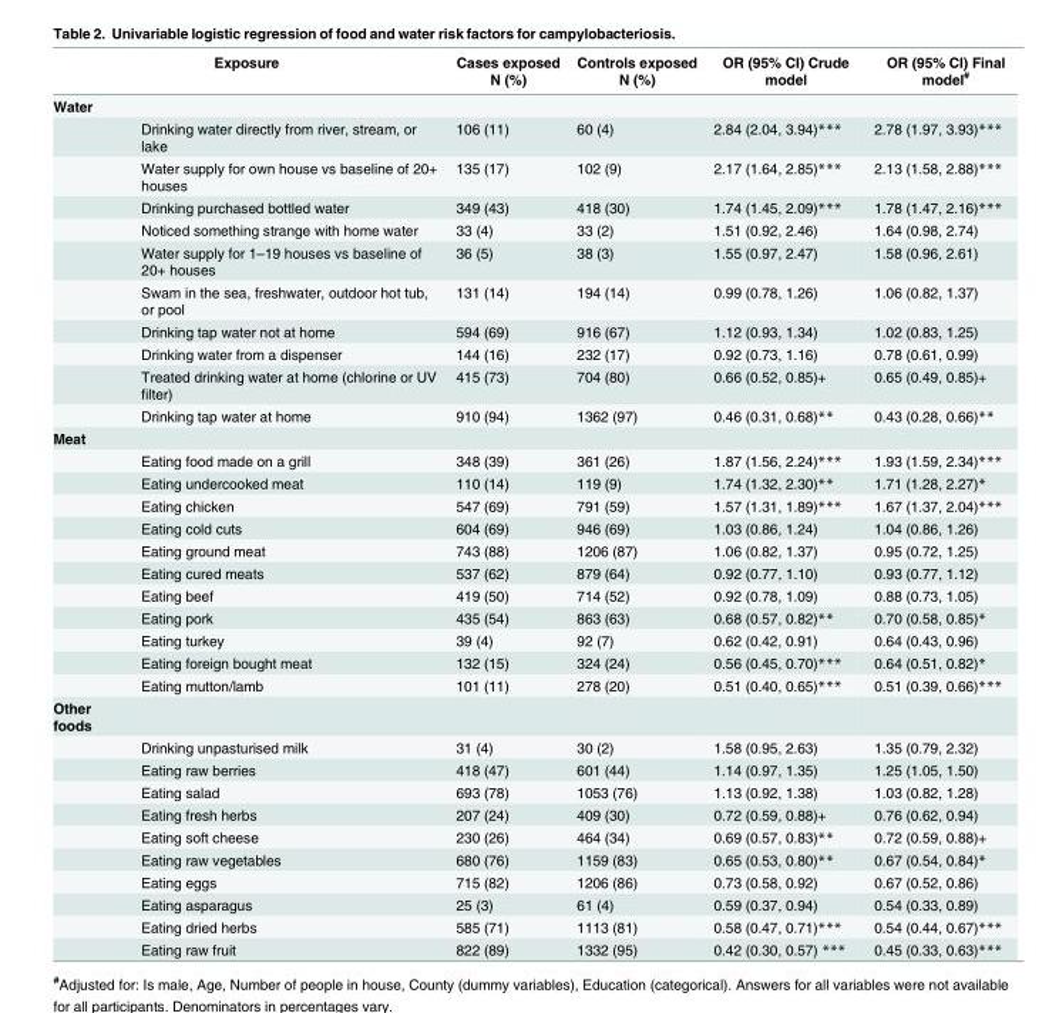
<table><thead><tr><td colspan="2">Exposure</td><td rowspan="2">Cases exposed N (%)</td><td rowspan="2">Controls exposed N (%)</td><td rowspan="2">OR (95% CI) Crude model</td><td rowspan="2">OR (95% CI) Final model<sup>#</sup></td></tr><tr><td>Water</td><td></td></tr></thead><tbody><tr><td></td><td>Drinking water directly from river, stream, or lake</td><td>106 (11)</td><td>60 (4)</td><td>2.84 (2.04, 3.94)***</td><td>2.78 (1.97, 3.93)***</td></tr><tr><td></td><td>Water supply for own house vs baseline of 20+ houses</td><td>135 (17)</td><td>102 (9)</td><td>2.17 (1.64, 2.85)***</td><td>2.13 (1.58, 2.88)***</td></tr><tr><td></td><td>Drinking purchased bottled water</td><td>349 (43)</td><td>418 (30)</td><td>1.74 (1.45, 2.09)***</td><td>1.78 (1.47, 2.16)***</td></tr><tr><td></td><td>Noticed something strange with home water</td><td>33 (4)</td><td>33 (2)</td><td>1.51 (0.92, 2.46)</td><td>1.64 (0.98, 2.74)</td></tr><tr><td></td><td>Water supply for 1–19 houses vs baseline of 20+ houses</td><td>36 (5)</td><td>38 (3)</td><td>1.55 (0.97, 2.47)</td><td>1.58 (0.96, 2.61)</td></tr><tr><td></td><td>Swam in the sea, freshwater, outdoor hot tub, or pool</td><td>131 (14)</td><td>194 (14)</td><td>0.99 (0.78, 1.26)</td><td>1.06 (0.82, 1.37)</td></tr><tr><td></td><td>Drinking tap water not at home</td><td>594 (69)</td><td>916 (67)</td><td>1.12 (0.93, 1.34)</td><td>1.02 (0.83, 1.25)</td></tr><tr><td></td><td>Drinking water from a dispenser</td><td>144 (16)</td><td>232 (17)</td><td>0.92 (0.73, 1.16)</td><td>0.78 (0.61, 0.99)</td></tr><tr><td></td><td>Treated drinking water at home (chlorine or UV filter)</td><td>415 (73)</td><td>704 (80)</td><td>0.66 (0.52, 0.85)+</td><td>0.65 (0.49, 0.85)+</td></tr><tr><td></td><td>Drinking tap water at home</td><td>910 (94)</td><td>1362 (97)</td><td>0.46 (0.31, 0.68)**</td><td>0.43 (0.28, 0.66)**</td></tr><tr><td colspan="6">Meat</td></tr><tr><td></td><td>Eating food made on a grill</td><td>348 (39)</td><td>361 (26)</td><td>1.87 (1.56, 2.24)***</td><td>1.93 (1.59, 2.34)***</td></tr><tr><td></td><td>Eating undercooked meat</td><td>110 (14)</td><td>119 (9)</td><td>1.74 (1.32, 2.30)**</td><td>1.71 (1.28, 2.27)*</td></tr><tr><td></td><td>Eating chicken</td><td>547 (69)</td><td>791 (59)</td><td>1.57 (1.31, 1.89)***</td><td>1.67 (1.37, 2.04)***</td></tr><tr><td></td><td>Eating cold cuts</td><td>604 (69)</td><td>946 (69)</td><td>1.03 (0.86, 1.24)</td><td>1.04 (0.86, 1.26)</td></tr><tr><td></td><td>Eating ground meat</td><td>743 (88)</td><td>1206 (87)</td><td>1.06 (0.82, 1.37)</td><td>0.95 (0.72, 1.25)</td></tr><tr><td></td><td>Eating cured meats</td><td>537 (62)</td><td>879 (64)</td><td>0.92 (0.77, 1.10)</td><td>0.93 (0.77, 1.12)</td></tr><tr><td></td><td>Eating beef</td><td>419 (50)</td><td>714 (52)</td><td>0.92 (0.78, 1.09)</td><td>0.88 (0.73, 1.05)</td></tr><tr><td></td><td>Eating pork</td><td>435 (54)</td><td>863 (63)</td><td>0.68 (0.57, 0.82)**</td><td>0.70 (0.58, 0.85)*</td></tr><tr><td></td><td>Eating turkey</td><td>39 (4)</td><td>92 (7)</td><td>0.62 (0.42, 0.91)</td><td>0.64 (0.43, 0.96)</td></tr><tr><td></td><td>Eating foreign bought meat</td><td>132 (15)</td><td>324 (24)</td><td>0.56 (0.45, 0.70)***</td><td>0.64 (0.51, 0.82)*</td></tr><tr><td></td><td>Eating mutton/lamb</td><td>101 (11)</td><td>278 (20)</td><td>0.51 (0.40, 0.65)***</td><td>0.51 (0.39, 0.66)***</td></tr><tr><td colspan="6">Other foods</td></tr><tr><td></td><td>Drinking unpasturised milk</td><td>31 (4)</td><td>30 (2)</td><td>1.58 (0.95, 2.63)</td><td>1.35 (0.79, 2.32)</td></tr><tr><td></td><td>Eating raw berries</td><td>418 (47)</td><td>601 (44)</td><td>1.14 (0.97, 1.35)</td><td>1.25 (1.05, 1.50)</td></tr><tr><td></td><td>Eating salad</td><td>693 (78)</td><td>1053 (76)</td><td>1.13 (0.92, 1.38)</td><td>1.03 (0.82, 1.28)</td></tr><tr><td></td><td>Eating fresh herbs</td><td>207 (24)</td><td>409 (30)</td><td>0.72 (0.59, 0.88)+</td><td>0.76 (0.62, 0.94)</td></tr><tr><td></td><td>Eating soft cheese</td><td>230 (26)</td><td>464 (34)</td><td>0.69 (0.57, 0.83)**</td><td>0.72 (0.59, 0.88)+</td></tr><tr><td></td><td>Eating raw vegetables</td><td>680 (76)</td><td>1159 (83)</td><td>0.65 (0.53, 0.80)**</td><td>0.67 (0.54, 0.84)*</td></tr><tr><td></td><td>Eating eggs</td><td>715 (82)</td><td>1206 (86)</td><td>0.73 (0.58, 0.92)</td><td>0.67 (0.52, 0.86)</td></tr><tr><td></td><td>Eating asparagus</td><td>25 (3)</td><td>61 (4)</td><td>0.59 (0.37, 0.94)</td><td>0.54 (0.33, 0.89)</td></tr><tr><td></td><td>Eating dried herbs</td><td>585 (71)</td><td>1113 (81)</td><td>0.58 (0.47, 0.71)***</td><td>0.54 (0.44, 0.67)***</td></tr><tr><td></td><td>Eating raw fruit</td><td>822 (89)</td><td>1332 (95)</td><td>0.42 (0.30, 0.57) ***</td><td>0.45 (0.33, 0.63)***</td></tr></tbody></table>